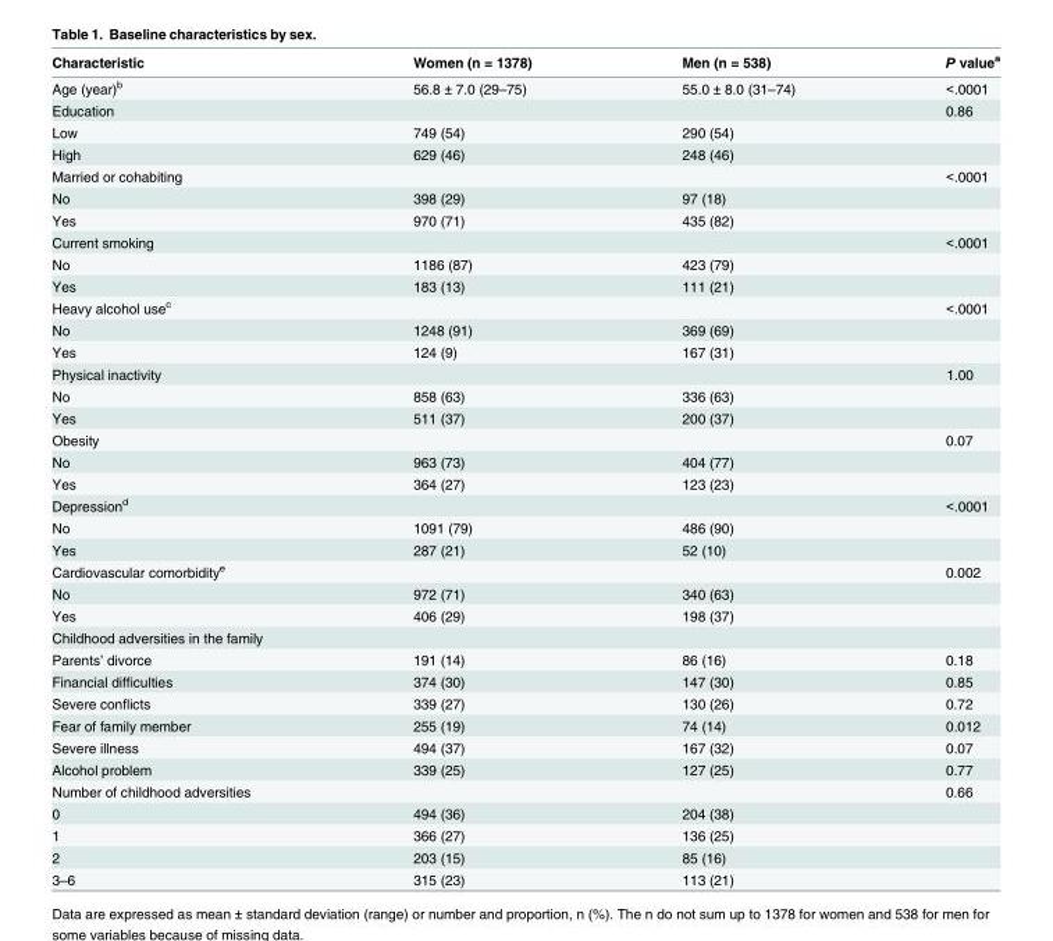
<table><thead><tr><td>Characteristic</td><td>Women (n = 1378)</td><td>Men (n = 538)</td><td>P value<sup>a</sup></td></tr></thead><tbody><tr><td>Age (year)<sup>b</sup></td><td>56.8 ± 7.0 (29–75)</td><td>55.0 ± 8.0 (31–74)</td><td>&lt;.0001</td></tr><tr><td>Education</td><td></td><td></td><td>0.86</td></tr><tr><td>Low</td><td>749 (54)</td><td>290 (54)</td><td></td></tr><tr><td>High</td><td>629 (46)</td><td>248 (46)</td><td></td></tr><tr><td>Married or cohabiting</td><td></td><td></td><td>&lt;.0001</td></tr><tr><td>No</td><td>398 (29)</td><td>97 (18)</td><td></td></tr><tr><td>Yes</td><td>970 (71)</td><td>435 (82)</td><td></td></tr><tr><td>Current smoking</td><td></td><td></td><td>&lt;.0001</td></tr><tr><td>No</td><td>1186 (87)</td><td>423 (79)</td><td></td></tr><tr><td>Yes</td><td>183 (13)</td><td>111 (21)</td><td></td></tr><tr><td>Heavy alcohol use<sup>c</sup></td><td></td><td></td><td>&lt;.0001</td></tr><tr><td>No</td><td>1248 (91)</td><td>369 (69)</td><td></td></tr><tr><td>Yes</td><td>124 (9)</td><td>167 (31)</td><td></td></tr><tr><td>Physical inactivity</td><td></td><td></td><td>1.00</td></tr><tr><td>No</td><td>858 (63)</td><td>336 (63)</td><td></td></tr><tr><td>Yes</td><td>511 (37)</td><td>200 (37)</td><td></td></tr><tr><td>Obesity</td><td></td><td></td><td>0.07</td></tr><tr><td>No</td><td>963 (73)</td><td>404 (77)</td><td></td></tr><tr><td>Yes</td><td>364 (27)</td><td>123 (23)</td><td></td></tr><tr><td>Depression<sup>d</sup></td><td></td><td></td><td>&lt;.0001</td></tr><tr><td>No</td><td>1091 (79)</td><td>486 (90)</td><td></td></tr><tr><td>Yes</td><td>287 (21)</td><td>52 (10)</td><td></td></tr><tr><td>Cardiovascular comorbidity<sup>e</sup></td><td></td><td></td><td>0.002</td></tr><tr><td>No</td><td>972 (71)</td><td>340 (63)</td><td></td></tr><tr><td>Yes</td><td>406 (29)</td><td>198 (37)</td><td></td></tr><tr><td colspan="4">Childhood adversities in the family</td></tr><tr><td>Parents’ divorce</td><td>191 (14)</td><td>86 (16)</td><td>0.18</td></tr><tr><td>Financial difficulties</td><td>374 (30)</td><td>147 (30)</td><td>0.85</td></tr><tr><td>Severe conflicts</td><td>339 (27)</td><td>130 (26)</td><td>0.72</td></tr><tr><td>Fear of family member</td><td>255 (19)</td><td>74 (14)</td><td>0.012</td></tr><tr><td>Severe illness</td><td>494 (37)</td><td>167 (32)</td><td>0.07</td></tr><tr><td>Alcohol problem</td><td>339 (25)</td><td>127 (25)</td><td>0.77</td></tr><tr><td>Number of childhood adversities</td><td></td><td></td><td>0.66</td></tr><tr><td>0</td><td>494 (36)</td><td>204 (38)</td><td></td></tr><tr><td>1</td><td>366 (27)</td><td>136 (25)</td><td></td></tr><tr><td>2</td><td>203 (15)</td><td>85 (16)</td><td></td></tr><tr><td>3–6</td><td>315 (23)</td><td>113 (21)</td><td></td></tr></tbody></table>